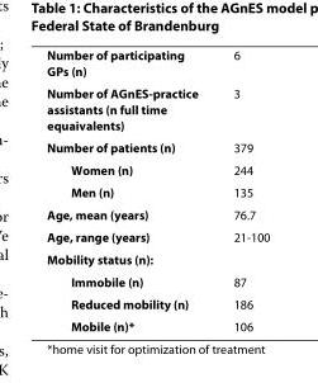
<table><tbody><tr><td>Number of participating GPs (n)</td><td>6</td></tr><tr><td>Number of AGnES-practice assistants (n full time equaivalents)</td><td>3</td></tr><tr><td>Number of patients (n)</td><td>379</td></tr><tr><td>Women (n)</td><td>244</td></tr><tr><td>Men (n)</td><td>135</td></tr><tr><td>Age, mean (years)</td><td>76.7</td></tr><tr><td>Age, range (years)</td><td>21-100</td></tr><tr><td colspan="2">Mobility status (n):</td></tr><tr><td>Immobile (n)</td><td>87</td></tr><tr><td>Reduced mobility (n)</td><td>186</td></tr><tr><td>Mobile (n)*</td><td>106</td></tr></tbody></table>